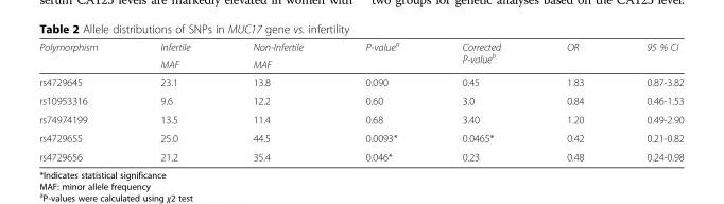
<table><thead><tr><td rowspan="2">Polymorphism</td><td rowspan="2">Infertile MAF</td><td rowspan="2">Non-Infertile MAF</td><td rowspan="2">P-value<sup>a</sup></td><td rowspan="2">Corrected P-value<sup>b</sup></td><td rowspan="2">OR</td><td rowspan="2">95 % CI</td></tr><tr></tr></thead><tbody><tr><td>rs4729645</td><td>23.1</td><td>13.8</td><td>0.090</td><td>0.45</td><td>1.83</td><td>0.87-3.82</td></tr><tr><td>rs10953316</td><td>9.6</td><td>12.2</td><td>0.60</td><td>3.0</td><td>0.84</td><td>0.46-1.53</td></tr><tr><td>rs74974199</td><td>13.5</td><td>11.4</td><td>0.68</td><td>3.40</td><td>1.20</td><td>0.49-2.90</td></tr><tr><td>rs4729655</td><td>25.0</td><td>44.5</td><td>0.0093*</td><td>0.0465*</td><td>0.42</td><td>0.21-0.82</td></tr><tr><td>rs4729656</td><td>21.2</td><td>35.4</td><td>0.046*</td><td>0.23</td><td>0.48</td><td>0.24-0.98</td></tr></tbody></table>